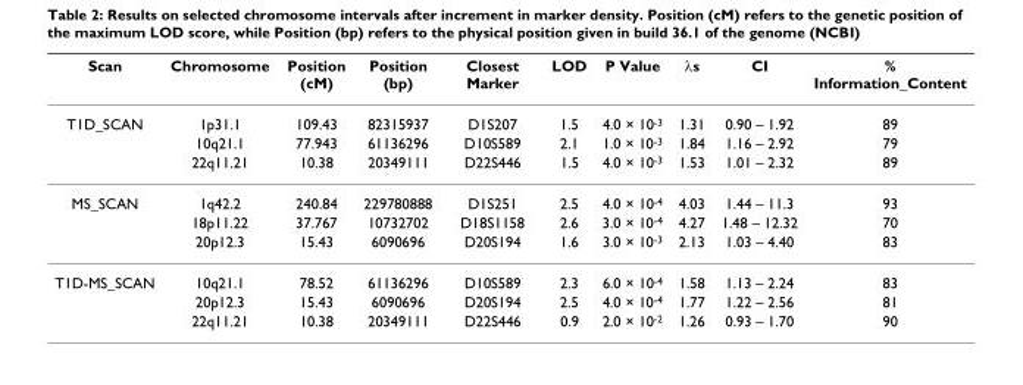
<table><thead><tr><td>Scan</td><td>Chromosome</td><td>Position (cM)</td><td>Position (bp)</td><td>Closest Marker</td><td>LOD</td><td>P Value</td><td>λs</td><td>CI</td><td>% Information_Content</td></tr></thead><tbody><tr><td rowspan="3">T1D_SCAN</td><td>1p31.1</td><td>109.43</td><td>82315937</td><td>D1S207</td><td>1.5</td><td>4.0 × 10<sup>-3</sup></td><td>1.31</td><td>0.90 – 1.92</td><td>89</td></tr><tr><td>10q21.1</td><td>77.943</td><td>61136296</td><td>D10S589</td><td>2.1</td><td>1.0 × 10<sup>-3</sup></td><td>1.84</td><td>1.16 – 2.92</td><td>79</td></tr><tr><td>22q11.21</td><td>10.38</td><td>20349111</td><td>D22S446</td><td>1.5</td><td>4.0 × 10<sup>-3</sup></td><td>1.53</td><td>1.01 – 2.32</td><td>89</td></tr><tr><td rowspan="3">MS_SCAN</td><td>1q42.2</td><td>240.84</td><td>229780888</td><td>D1S251</td><td>2.5</td><td>4.0 × 10<sup>-4</sup></td><td>4.03</td><td>1.44 – 11.3</td><td>93</td></tr><tr><td>18p11.22</td><td>37.767</td><td>10732702</td><td>D18S1158</td><td>2.6</td><td>3.0 × 10<sup>-4</sup></td><td>4.27</td><td>1.48 – 12.32</td><td>70</td></tr><tr><td>20p12.3</td><td>15.43</td><td>6090696</td><td>D20S194</td><td>1.6</td><td>3.0 × 10<sup>-3</sup></td><td>2.13</td><td>1.03 – 4.40</td><td>83</td></tr><tr><td rowspan="3">T1D-MS_SCAN</td><td>10q21.1</td><td>78.52</td><td>61136296</td><td>D10S589</td><td>2.3</td><td>6.0 × 10<sup>-4</sup></td><td>1.58</td><td>1.13 – 2.24</td><td>83</td></tr><tr><td>20p12.3</td><td>15.43</td><td>6090696</td><td>D20S194</td><td>2.5</td><td>4.0 × 10<sup>-4</sup></td><td>1.77</td><td>1.22 – 2.56</td><td>81</td></tr><tr><td>22q11.21</td><td>10.38</td><td>20349111</td><td>D22S446</td><td>0.9</td><td>2.0 × 10<sup>-2</sup></td><td>1.26</td><td>0.93 – 1.70</td><td>90</td></tr></tbody></table>